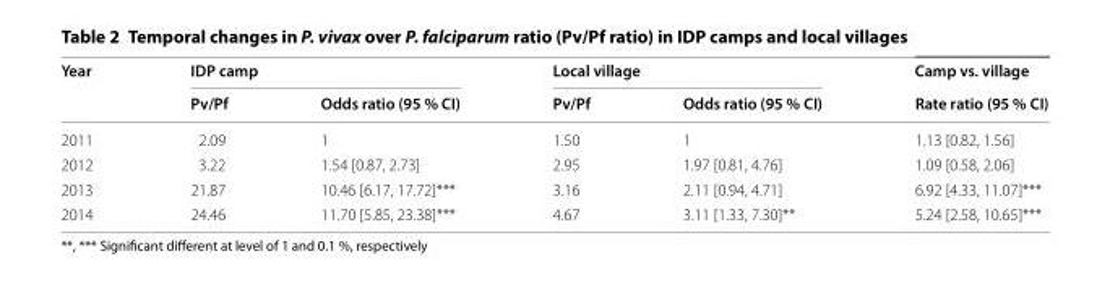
<table><thead><tr><td rowspan="2">Year</td><td colspan="2">IDP camp</td><td colspan="2">Local village</td><td rowspan="2">Camp vs. village Rate ratio (95 % CI)</td></tr><tr><td>Pv/Pf</td><td>Odds ratio (95 % CI)</td><td>Pv/Pf</td><td>Odds ratio (95 % CI)</td></tr></thead><tbody><tr><td>2011</td><td>2.09</td><td>1</td><td>1.50</td><td>1</td><td>1.13 [0.82, 1.56]</td></tr><tr><td>2012</td><td>3.22</td><td>1.54 [0.87, 2.73]</td><td>2.95</td><td>1.97 [0.81, 4.76]</td><td>1.09 [0.58, 2.06]</td></tr><tr><td>2013</td><td>21.87</td><td>10.46 [6.17, 17.72]***</td><td>3.16</td><td>2.11 [0.94, 4.71]</td><td>6.92 [4.33, 11.07]***</td></tr><tr><td>2014</td><td>24.46</td><td>11.70 [5.85, 23.38]***</td><td>4.67</td><td>3.11 [1.33, 7.30]**</td><td>5.24 [2.58, 10.65]***</td></tr></tbody></table>